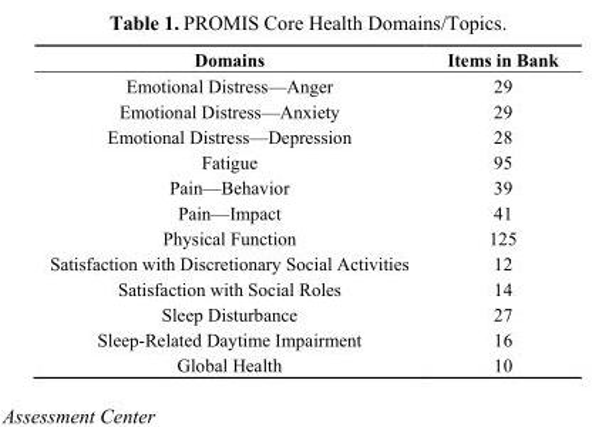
<table><thead><tr><td>Domains</td><td>Items in Bank</td></tr></thead><tbody><tr><td>Emotional Distress—Anger</td><td>29</td></tr><tr><td>Emotional Distress—Anxiety</td><td>29</td></tr><tr><td>Emotional Distress—Depression</td><td>28</td></tr><tr><td>Fatigue</td><td>95</td></tr><tr><td>Pain—Behavior</td><td>39</td></tr><tr><td>Pain—Impact</td><td>41</td></tr><tr><td>Physical Function</td><td>125</td></tr><tr><td>Satisfaction with Discretionary Social Activities</td><td>12</td></tr><tr><td>Satisfaction with Social Roles</td><td>14</td></tr><tr><td>Sleep Disturbance</td><td>27</td></tr><tr><td>Sleep-Related Daytime Impairment</td><td>16</td></tr><tr><td>Global Health</td><td>10</td></tr></tbody></table>